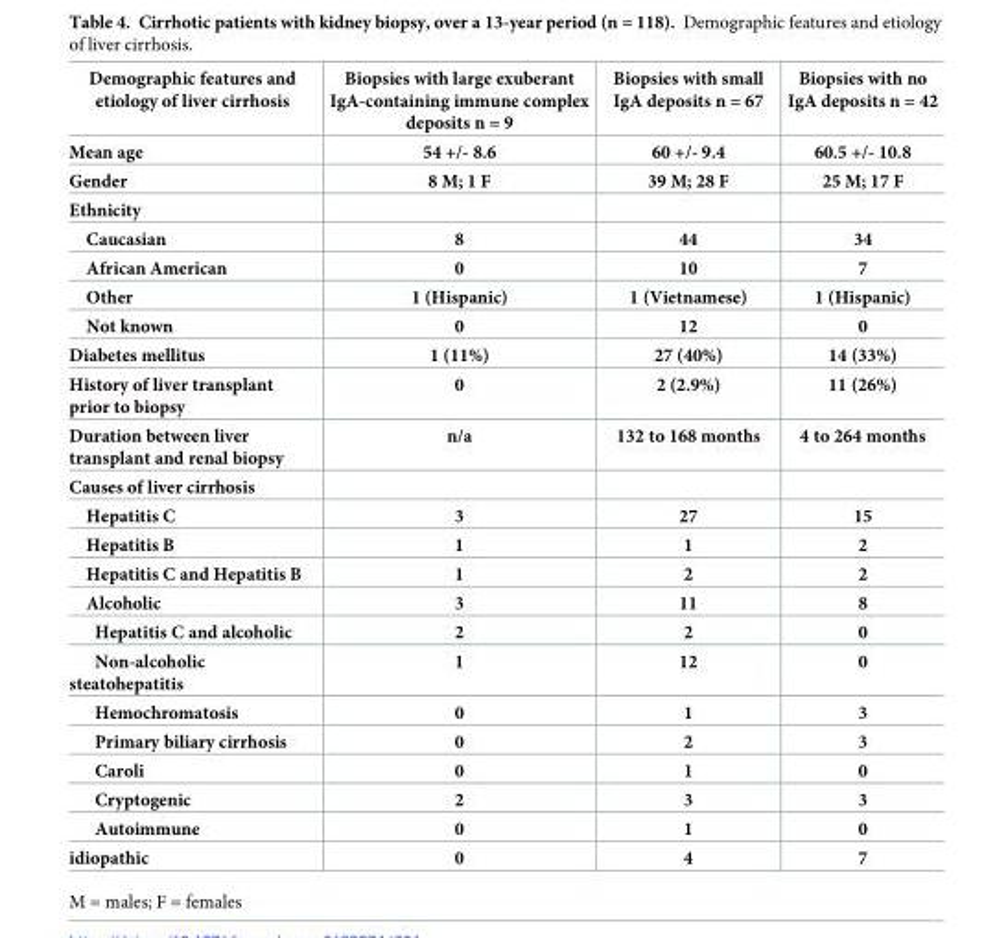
<table><thead><tr><td rowspan="2">Demographic features and etiology of liver cirrhosis Mean age</td><td rowspan="2">Biopsies with large exuberant IgA-containing immune complex deposits n = 9 54 +/- 8.6</td><td rowspan="2">Biopsies with small IgA deposits n = 67 60 +/- 9.4</td><td rowspan="2">Biopsies with no IgA deposits n = 42 60.5 +/- 10.8</td></tr><tr></tr></thead><tbody><tr><td>Gender</td><td>8 M; 1 F</td><td>39 M; 28 F</td><td>25 M; 17 F</td></tr><tr><td colspan="4">Ethnicity</td></tr><tr><td>Caucasian</td><td>8</td><td>44</td><td>34</td></tr><tr><td>African American</td><td>0</td><td>10</td><td>7</td></tr><tr><td>Other</td><td>1 (Hispanic)</td><td>1 (Vietnamese)</td><td>1 (Hispanic)</td></tr><tr><td>Not known</td><td>0</td><td>12</td><td>0</td></tr><tr><td>Diabetes mellitus</td><td>1 (11%)</td><td>27 (40%)</td><td>14 (33%)</td></tr><tr><td>History of liver transplant prior to biopsy</td><td>0</td><td>2 (2.9%)</td><td>11 (26%)</td></tr><tr><td>Duration between liver transplant and renal biopsy</td><td>n/a</td><td>132 to 168 months</td><td>4 to 264 months</td></tr><tr><td colspan="4">Causes of liver cirrhosis</td></tr><tr><td>Hepatitis C</td><td>3</td><td>27</td><td>15</td></tr><tr><td>Hepatitis B</td><td>1</td><td>1</td><td>2</td></tr><tr><td>Hepatitis C and Hepatitis B</td><td>1</td><td>2</td><td>2</td></tr><tr><td>Alcoholic</td><td>3</td><td>11</td><td>8</td></tr><tr><td>Hepatitis C and alcoholic</td><td>2</td><td>2</td><td>0</td></tr><tr><td>Non-alcoholic steatohepatitis</td><td>1</td><td>12</td><td>0</td></tr><tr><td>Hemochromatosis</td><td>0</td><td>1</td><td>3</td></tr><tr><td>Primary biliary cirrhosis</td><td>0</td><td>2</td><td>3</td></tr><tr><td>Caroli</td><td>0</td><td>1</td><td>0</td></tr><tr><td>Cryptogenic</td><td>2</td><td>3</td><td>3</td></tr><tr><td>Autoimmune</td><td>0</td><td>1</td><td>0</td></tr><tr><td>idiopathic</td><td>0</td><td>4</td><td>7</td></tr></tbody></table>